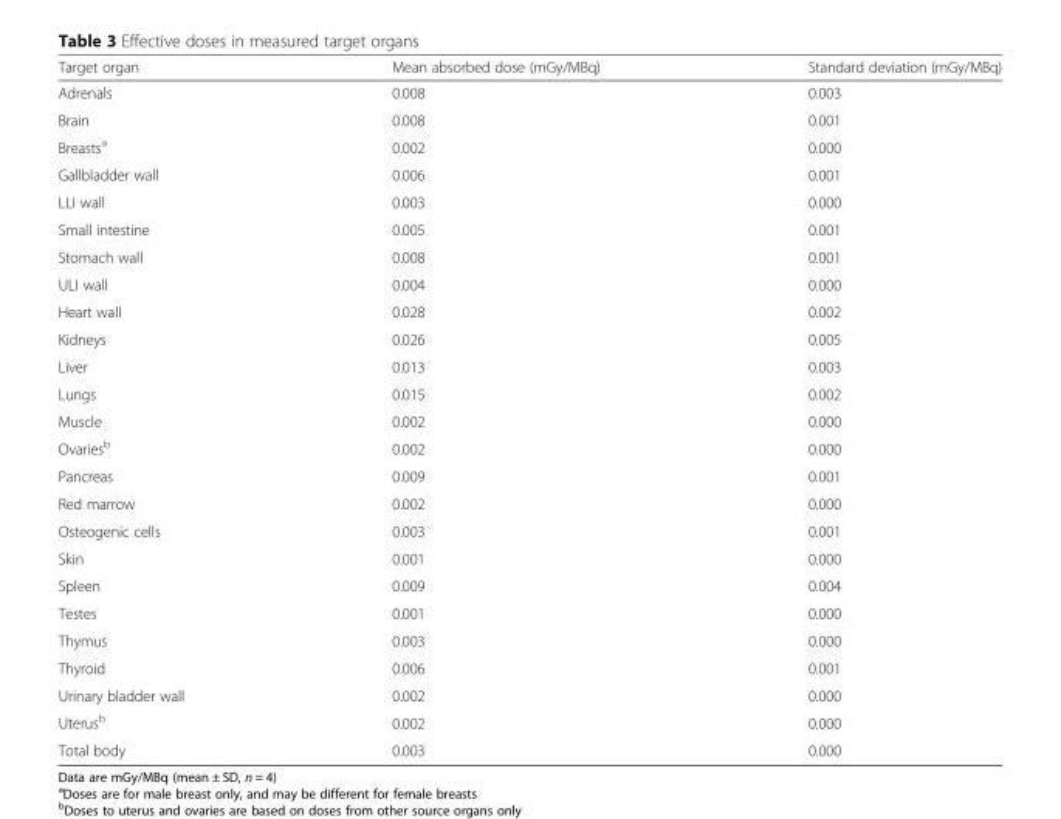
<table><thead><tr><td>Target organ</td><td>Mean absorbed dose (mGy/MBq)</td><td>Standard deviation (mGy/MBq)</td></tr></thead><tbody><tr><td>Adrenals</td><td>0.008</td><td>0.003</td></tr><tr><td>Brain</td><td>0.008</td><td>0.001</td></tr><tr><td>Breasts<sup>a</sup></td><td>0.002</td><td>0.000</td></tr><tr><td>Gallbladder wall</td><td>0.006</td><td>0.001</td></tr><tr><td>LLI wall</td><td>0.003</td><td>0.000</td></tr><tr><td>Small intestine</td><td>0.005</td><td>0.001</td></tr><tr><td>Stomach wall</td><td>0.008</td><td>0.001</td></tr><tr><td>ULI wall</td><td>0.004</td><td>0.000</td></tr><tr><td>Heart wall</td><td>0.028</td><td>0.002</td></tr><tr><td>Kidneys</td><td>0.026</td><td>0.005</td></tr><tr><td>Liver</td><td>0.013</td><td>0.003</td></tr><tr><td>Lungs</td><td>0.015</td><td>0.002</td></tr><tr><td>Muscle</td><td>0.002</td><td>0.000</td></tr><tr><td>Ovaries<sup>b</sup></td><td>0.002</td><td>0.000</td></tr><tr><td>Pancreas</td><td>0.009</td><td>0.001</td></tr><tr><td>Red marrow</td><td>0.002</td><td>0.000</td></tr><tr><td>Osteogenic cells</td><td>0.003</td><td>0.001</td></tr><tr><td>Skin</td><td>0.001</td><td>0.000</td></tr><tr><td>Spleen</td><td>0.009</td><td>0.004</td></tr><tr><td>Testes</td><td>0.001</td><td>0.000</td></tr><tr><td>Thymus</td><td>0.003</td><td>0.000</td></tr><tr><td>Thyroid</td><td>0.006</td><td>0.001</td></tr><tr><td>Urinary bladder wall</td><td>0.002</td><td>0.000</td></tr><tr><td>Uterus<sup>b</sup></td><td>0.002</td><td>0.000</td></tr><tr><td>Total body</td><td>0.003</td><td>0.000</td></tr></tbody></table>